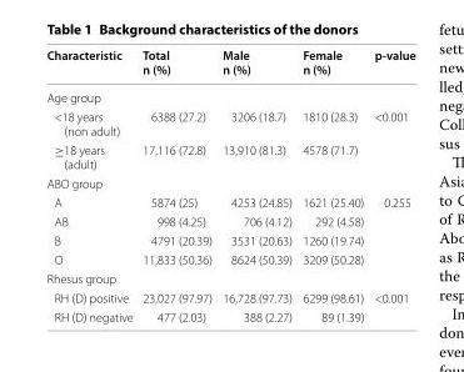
<table><thead><tr><td>Characteristic</td><td>Total n (%)</td><td>Male n (%)</td><td>Female n (%)</td><td>p-value</td></tr></thead><tbody><tr><td colspan="5">Age group</td></tr><tr><td>&lt;18 years (non adult)</td><td>6388 (27.2)</td><td>3206 (18.7)</td><td>1810 (28.3)</td><td rowspan="2">&lt;0.001</td></tr><tr><td>≥18 years (adult)</td><td>17,116 (72.8)</td><td>13,910 (81.3)</td><td>4578 (71.7)</td></tr><tr><td colspan="5">ABO group</td></tr><tr><td>A</td><td>5874 (25)</td><td>4253 (24.85)</td><td>1621 (25.40)</td><td rowspan="4">0.255</td></tr><tr><td>AB</td><td>998 (4.25)</td><td>706 (4.12)</td><td>292 (4.58)</td></tr><tr><td>B</td><td>4791 (20.39)</td><td>3531 (20.63)</td><td>1260 (19.74)</td></tr><tr><td>O</td><td>11,833 (50.36)</td><td>8624 (50.39)</td><td>3209 (50.28)</td></tr><tr><td colspan="5">Rhesus group</td></tr><tr><td>RH (D) positive</td><td>23,027 (97.97)</td><td>16,728 (97.73)</td><td>6299 (98.61)</td><td rowspan="2">&lt;0.001</td></tr><tr><td>RH (D) negative</td><td>477 (2.03)</td><td>388 (2.27)</td><td>89 (1.39)</td></tr></tbody></table>